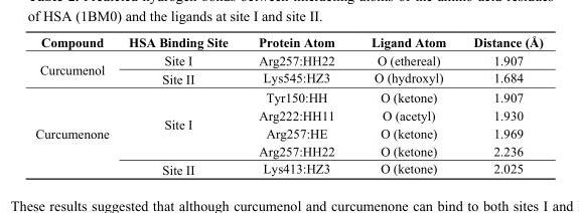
<table><thead><tr><td>Compound</td><td>HSA Binding Site</td><td>Protein Atom</td><td>Ligand Atom</td><td>Distance (Å)</td></tr></thead><tbody><tr><td rowspan="2">Curcumenol</td><td>Site I</td><td>Arg257:HH22</td><td>O (ethereal)</td><td>1.907</td></tr><tr><td>Site II</td><td>Lys545:HZ3</td><td>O (hydroxyl)</td><td>1.684</td></tr><tr><td rowspan="5">Curcumenone</td><td rowspan="4">Site I</td><td>Tyr150:HH</td><td>O (ketone)</td><td>1.907</td></tr><tr><td>Arg222:HH11</td><td>O (acetyl)</td><td>1.930</td></tr><tr><td>Arg257:HE</td><td>O (ketone)</td><td>1.969</td></tr><tr><td>Arg257:HH22</td><td>O (ketone)</td><td>2.236</td></tr><tr><td>Site II</td><td>Lys413:HZ3</td><td>O (ketone)</td><td>2.025</td></tr></tbody></table>